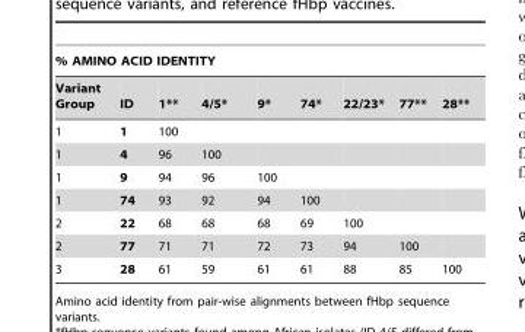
<table><thead><tr><td colspan="9">% AMINO ACID IDENTITY</td></tr><tr><td>Variant Group</td><td>ID</td><td>1**</td><td>4/5*</td><td>9*</td><td>74*</td><td>22/23*</td><td>77**</td><td>28**</td></tr></thead><tbody><tr><td>1</td><td>1</td><td>100</td><td></td><td></td><td></td><td></td><td></td><td></td></tr><tr><td>1</td><td>4</td><td>96</td><td>100</td><td></td><td></td><td></td><td></td><td></td></tr><tr><td>1</td><td>9</td><td>94</td><td>96</td><td>100</td><td></td><td></td><td></td><td></td></tr><tr><td>1</td><td>74</td><td>93</td><td>92</td><td>94</td><td>100</td><td></td><td></td><td></td></tr><tr><td>2</td><td>22</td><td>68</td><td>68</td><td>68</td><td>69</td><td>100</td><td></td><td></td></tr><tr><td>2</td><td>77</td><td>71</td><td>71</td><td>72</td><td>73</td><td>94</td><td>100</td><td></td></tr><tr><td>3</td><td>28</td><td>61</td><td>59</td><td>61</td><td>61</td><td>88</td><td>85</td><td>100</td></tr></tbody></table>